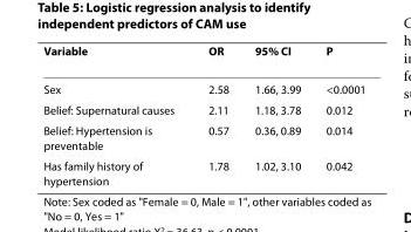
<table><thead><tr><td>Variable</td><td>OR</td><td>95% CI</td><td>P</td></tr></thead><tbody><tr><td>Sex</td><td>2.58</td><td>1.66, 3.99</td><td>&lt;0.0001</td></tr><tr><td>Belief: Supernatural causes</td><td>2.11</td><td>1.18, 3.78</td><td>0.012</td></tr><tr><td>Belief: Hypertension is preventable</td><td>0.57</td><td>0.36, 0.89</td><td>0.014</td></tr><tr><td>Has family history of hypertension</td><td>1.78</td><td>1.02, 3.10</td><td>0.042</td></tr></tbody></table>